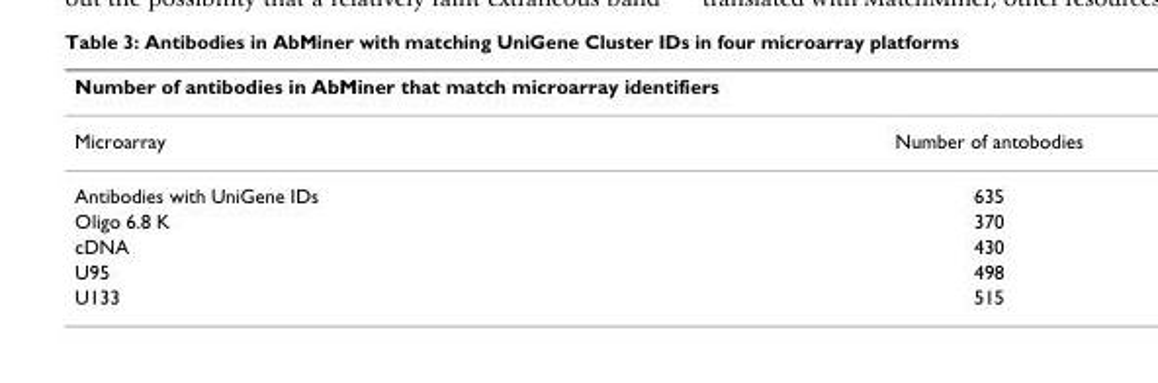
<table><thead><tr><td colspan="2">Number of antibodies in AbMiner that match microarray identifiers</td></tr><tr><td>Microarray</td><td>Number of antobodies</td></tr></thead><tbody><tr><td>Antibodies with UniGene IDs</td><td>635</td></tr><tr><td>Oligo 6.8 K</td><td>370</td></tr><tr><td>cDNA</td><td>430</td></tr><tr><td>U95</td><td>498</td></tr><tr><td>U133</td><td>515</td></tr></tbody></table>